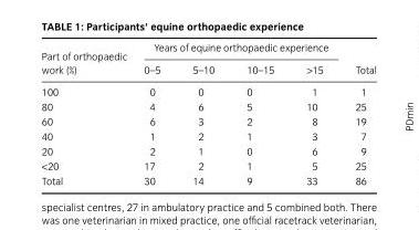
<table><thead><tr><td rowspan="2">Part of orthopaedic work (%)</td><td colspan="4">Years of equine orthopaedic experience</td><td rowspan="2">Total</td></tr><tr><td>0–5</td><td>5–10</td><td>10–15</td><td>&gt;15</td></tr></thead><tbody><tr><td>100</td><td>0</td><td>0</td><td>0</td><td>1</td><td>1</td></tr><tr><td>80</td><td>4</td><td>6</td><td>5</td><td>10</td><td>25</td></tr><tr><td>60</td><td>6</td><td>3</td><td>2</td><td>8</td><td>19</td></tr><tr><td>40</td><td>1</td><td>2</td><td>1</td><td>3</td><td>7</td></tr><tr><td>20</td><td>2</td><td>1</td><td>0</td><td>6</td><td>9</td></tr><tr><td>&lt;20</td><td>17</td><td>2</td><td>1</td><td>5</td><td>25</td></tr><tr><td>Total</td><td>30</td><td>14</td><td>9</td><td>33</td><td>86</td></tr></tbody></table>